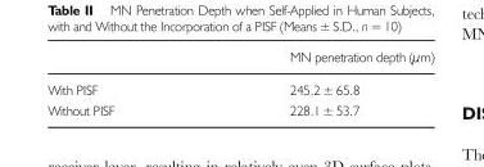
<table><thead><tr><td></td><td>MN penetration depth (μm)</td></tr></thead><tbody><tr><td>With PISF</td><td>245.2 ± 65.8</td></tr><tr><td>Without PISF</td><td>228.1 ± 53.7</td></tr></tbody></table>